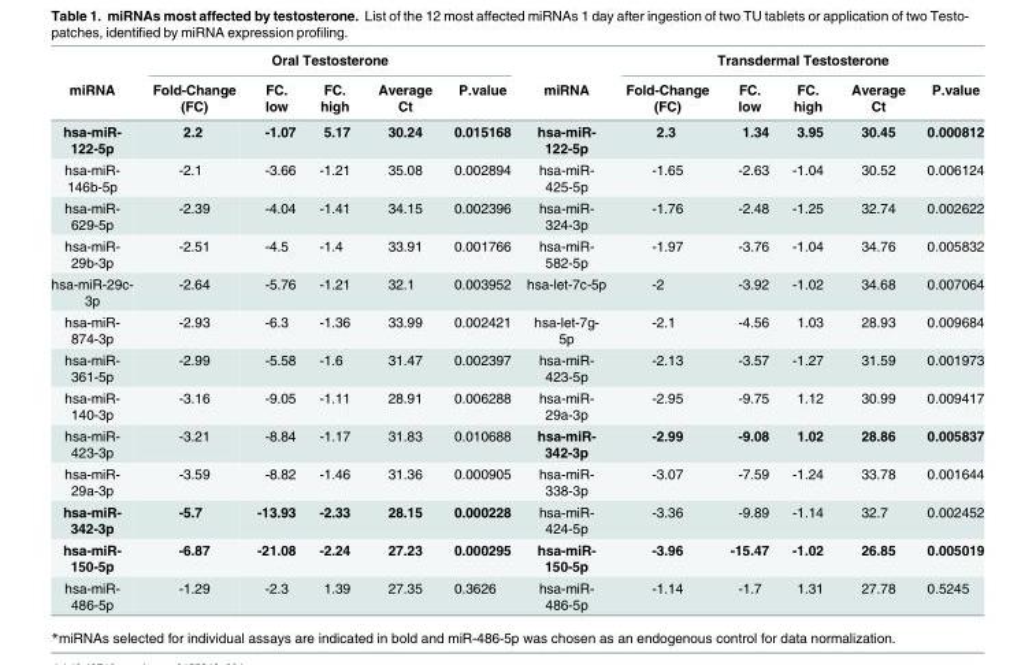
<table><thead><tr><td rowspan="2">miRNA</td><td colspan="5">Oral Testosterone</td><td rowspan="2">miRNA</td><td colspan="5">Transdermal Testosterone</td></tr><tr><td>Fold-Change (FC)</td><td>FC. low</td><td>FC. high</td><td>Average Ct</td><td>P.value</td><td>Fold-Change (FC)</td><td>FC. low</td><td>FC. high</td><td>Average Ct</td><td>P.value</td></tr></thead><tbody><tr><td>hsa-miR- 122-5p</td><td>2.2</td><td>-1.07</td><td>5.17</td><td>30.24</td><td>0.015168</td><td>hsa-miR- 122-5p</td><td>2.3</td><td>1.34</td><td>3.95</td><td>30.45</td><td>0.000812</td></tr><tr><td>hsa-miR- 146b-5p</td><td>-2.1</td><td>-3.66</td><td>-1.21</td><td>35.08</td><td>0.002894</td><td>hsa-miR- 425-5p</td><td>-1.65</td><td>-2.63</td><td>-1.04</td><td>30.52</td><td>0.006124</td></tr><tr><td>hsa-miR- 629-5p</td><td>-2.39</td><td>-4.04</td><td>-1.41</td><td>34.15</td><td>0.002396</td><td>hsa-miR- 324-3p</td><td>-1.76</td><td>-2.48</td><td>-1.25</td><td>32.74</td><td>0.002622</td></tr><tr><td>hsa-miR- 29b-3p</td><td>-2.51</td><td>-4.5</td><td>-1.4</td><td>33.91</td><td>0.001766</td><td>hsa-miR- 582-5p</td><td>-1.97</td><td>-3.76</td><td>-1.04</td><td>34.76</td><td>0.005832</td></tr><tr><td>hsa-miR-29c- 3p</td><td>-2.64</td><td>-5.76</td><td>-1.21</td><td>32.1</td><td>0.003952</td><td>hsa-let-7c-5p</td><td>-2</td><td>-3.92</td><td>-1.02</td><td>34.68</td><td>0.007064</td></tr><tr><td>hsa-miR- 874-3p</td><td>-2.93</td><td>-6.3</td><td>-1.36</td><td>33.99</td><td>0.002421</td><td>hsa-let-7g- 5p</td><td>-2.1</td><td>-4.56</td><td>1.03</td><td>28.93</td><td>0.009684</td></tr><tr><td>hsa-miR- 361-5p</td><td>-2.99</td><td>-5.58</td><td>-1.6</td><td>31.47</td><td>0.002397</td><td>hsa-miR- 423-5p</td><td>-2.13</td><td>-3.57</td><td>-1.27</td><td>31.59</td><td>0.001973</td></tr><tr><td>hsa-miR- 140-3p</td><td>-3.16</td><td>-9.05</td><td>-1.11</td><td>28.91</td><td>0.006288</td><td>hsa-miR- 29a-3p</td><td>-2.95</td><td>-9.75</td><td>1.12</td><td>30.99</td><td>0.009417</td></tr><tr><td>hsa-miR- 423-3p</td><td>-3.21</td><td>-8.84</td><td>-1.17</td><td>31.83</td><td>0.010688</td><td>hsa-miR- 342-3p</td><td>-2.99</td><td>-9.08</td><td>1.02</td><td>28.86</td><td>0.005837</td></tr><tr><td>hsa-miR- 29a-3p</td><td>-3.59</td><td>-8.82</td><td>-1.46</td><td>31.36</td><td>0.000905</td><td>hsa-miR- 338-3p</td><td>-3.07</td><td>-7.59</td><td>-1.24</td><td>33.78</td><td>0.001644</td></tr><tr><td>hsa-miR- 342-3p</td><td>-5.7</td><td>-13.93</td><td>-2.33</td><td>28.15</td><td>0.000228</td><td>hsa-miR- 424-5p</td><td>-3.36</td><td>-9.89</td><td>-1.14</td><td>32.7</td><td>0.002452</td></tr><tr><td>hsa-miR- 150-5p</td><td>-6.87</td><td>-21.08</td><td>-2.24</td><td>27.23</td><td>0.000295</td><td>hsa-miR- 150-5p</td><td>-3.96</td><td>-15.47</td><td>-1.02</td><td>26.85</td><td>0.005019</td></tr><tr><td>hsa-miR- 486-5p</td><td>-1.29</td><td>-2.3</td><td>1.39</td><td>27.35</td><td>0.3626</td><td>hsa-miR- 486-5p</td><td>-1.14</td><td>-1.7</td><td>1.31</td><td>27.78</td><td>0.5245</td></tr></tbody></table>